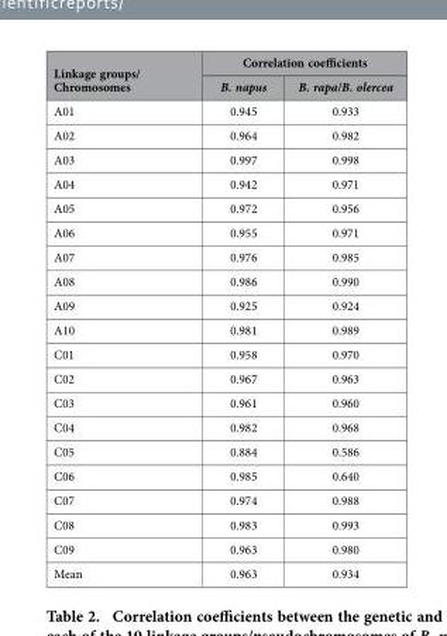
<table><thead><tr><td rowspan="2">Linkage groups/ Chromosomes</td><td colspan="2">Correlation coefficients</td></tr><tr><td>B. napus</td><td>B. rapa/B. olercea</td></tr></thead><tbody><tr><td>A01</td><td>0.945</td><td>0.933</td></tr><tr><td>A02</td><td>0.964</td><td>0.982</td></tr><tr><td>A03</td><td>0.997</td><td>0.998</td></tr><tr><td>A04</td><td>0.942</td><td>0.971</td></tr><tr><td>A05</td><td>0.972</td><td>0.956</td></tr><tr><td>A06</td><td>0.955</td><td>0.971</td></tr><tr><td>A07</td><td>0.976</td><td>0.985</td></tr><tr><td>A08</td><td>0.986</td><td>0.990</td></tr><tr><td>A09</td><td>0.925</td><td>0.924</td></tr><tr><td>A10</td><td>0.981</td><td>0.989</td></tr><tr><td>C01</td><td>0.958</td><td>0.970</td></tr><tr><td>C02</td><td>0.967</td><td>0.963</td></tr><tr><td>C03</td><td>0.961</td><td>0.960</td></tr><tr><td>C04</td><td>0.982</td><td>0.968</td></tr><tr><td>C05</td><td>0.884</td><td>0.586</td></tr><tr><td>C06</td><td>0.985</td><td>0.640</td></tr><tr><td>C07</td><td>0.974</td><td>0.988</td></tr><tr><td>C08</td><td>0.983</td><td>0.993</td></tr><tr><td>C09</td><td>0.963</td><td>0.980</td></tr><tr><td>Mean</td><td>0.963</td><td>0.934</td></tr></tbody></table>